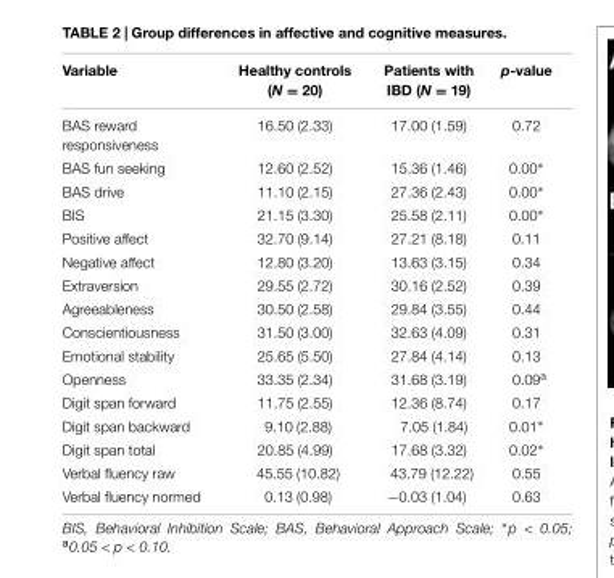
<table><thead><tr><td>Variable</td><td>Healthy controls (N = 20)</td><td>Patients with IBD (N = 19)</td><td>p-value</td></tr></thead><tbody><tr><td>BAS reward responsiveness</td><td>16.50 (2.33)</td><td>17.00 (1.59)</td><td>0.72</td></tr><tr><td>BAS fun seeking</td><td>12.60 (2.52)</td><td>15.36 (1.46)</td><td>0.00∗</td></tr><tr><td>BAS drive</td><td>11.10 (2.15)</td><td>27.36 (2.43)</td><td>0.00∗</td></tr><tr><td>BIS</td><td>21.15 (3.30)</td><td>25.58 (2.11)</td><td>0.00∗</td></tr><tr><td>Positive affect</td><td>32.70 (9.14)</td><td>27.21 (8.18)</td><td>0.11</td></tr><tr><td>Negative affect</td><td>12.80 (3.20)</td><td>13.63 (3.15)</td><td>0.34</td></tr><tr><td>Extraversion</td><td>29.55 (2.72)</td><td>30.16 (2.52)</td><td>0.39</td></tr><tr><td>Agreeableness</td><td>30.50 (2.58)</td><td>29.84 (3.55)</td><td>0.44</td></tr><tr><td>Conscientiousness</td><td>31.50 (3.00)</td><td>32.63 (4.09)</td><td>0.31</td></tr><tr><td>Emotional stability</td><td>25.65 (5.50)</td><td>27.84 (4.14)</td><td>0.13</td></tr><tr><td>Openness</td><td>33.35 (2.34)</td><td>31.68 (3.19)</td><td>0.09<sup>a</sup></td></tr><tr><td>Digit span forward</td><td>11.75 (2.55)</td><td>12.36 (8.74)</td><td>0.17</td></tr><tr><td>Digit span backward</td><td>9.10 (2.88)</td><td>7.05 (1.84)</td><td>0.01∗</td></tr><tr><td>Digit span total</td><td>20.85 (4.99)</td><td>17.68 (3.32)</td><td>0.02∗</td></tr><tr><td>Verbal fluency raw</td><td>45.55 (10.82)</td><td>43.79 (12.22)</td><td>0.55</td></tr><tr><td>Verbal fluency normed</td><td>0.13 (0.98)</td><td>−0.03 (1.04)</td><td>0.63</td></tr></tbody></table>